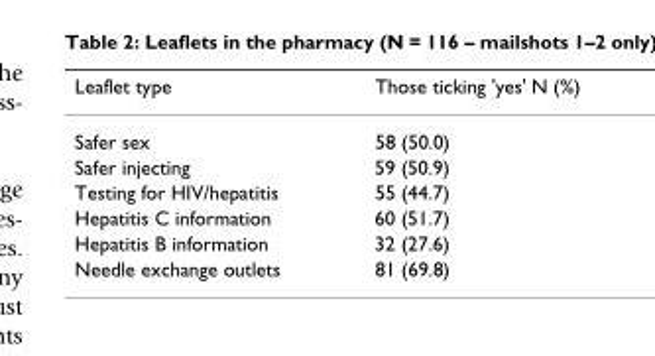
<table><thead><tr><td>Leaflet type</td><td>Those ticking &#x27;yes&#x27; N (%)</td></tr></thead><tbody><tr><td>Safer sex</td><td>58 (50.0)</td></tr><tr><td>Safer injecting</td><td>59 (50.9)</td></tr><tr><td>Testing for HIV/hepatitis</td><td>55 (44.7)</td></tr><tr><td>Hepatitis C information</td><td>60 (51.7)</td></tr><tr><td>Hepatitis B information</td><td>32 (27.6)</td></tr><tr><td>Needle exchange outlets</td><td>81 (69.8)</td></tr></tbody></table>